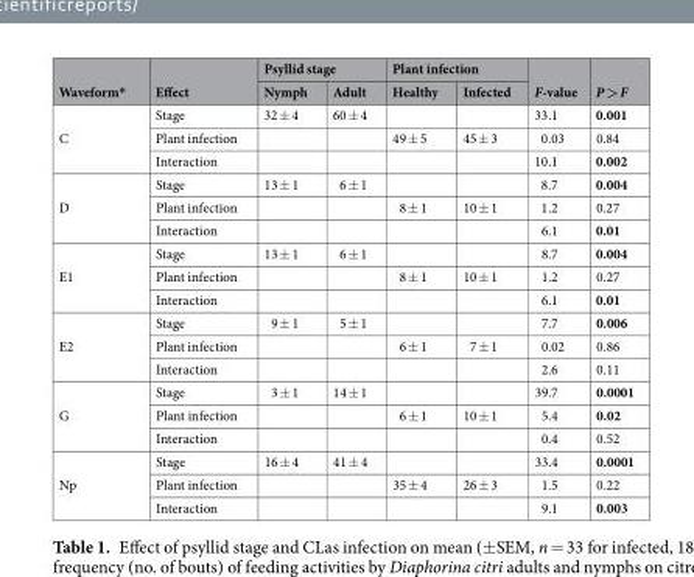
<table><thead><tr><td rowspan="2">Waveform*</td><td rowspan="2">Effect</td><td colspan="2">Psyllid stage</td><td colspan="2">Plant infection</td><td rowspan="2">F-value</td><td rowspan="2">P &gt; F</td></tr><tr><td>Nymph</td><td>Adult</td><td>Healthy</td><td>Infected</td></tr></thead><tbody><tr><td rowspan="3">C</td><td>Stage</td><td>32 ± 4</td><td>60 ± 4</td><td></td><td></td><td>33.1</td><td>0.001</td></tr><tr><td>Plant infection</td><td></td><td></td><td>49 ± 5</td><td>45 ± 3</td><td>0.03</td><td>0.84</td></tr><tr><td>Interaction</td><td></td><td></td><td></td><td></td><td>10.1</td><td>0.002</td></tr><tr><td rowspan="3">D</td><td>Stage</td><td>13 ± 1</td><td>6 ± 1</td><td></td><td></td><td>8.7</td><td>0.004</td></tr><tr><td>Plant infection</td><td></td><td></td><td>8 ± 1</td><td>10 ± 1</td><td>1.2</td><td>0.27</td></tr><tr><td>Interaction</td><td></td><td></td><td></td><td></td><td>6.1</td><td>0.01</td></tr><tr><td rowspan="3">E1</td><td>Stage</td><td>13 ± 1</td><td>6 ± 1</td><td></td><td></td><td>8.7</td><td>0.004</td></tr><tr><td>Plant infection</td><td></td><td></td><td>8 ± 1</td><td>10 ± 1</td><td>1.2</td><td>0.27</td></tr><tr><td>Interaction</td><td></td><td></td><td></td><td></td><td>6.1</td><td>0.01</td></tr><tr><td rowspan="3">E2</td><td>Stage</td><td>9 ± 1</td><td>5 ± 1</td><td></td><td></td><td>7.7</td><td>0.006</td></tr><tr><td>Plant infection</td><td></td><td></td><td>6 ± 1</td><td>7 ± 1</td><td>0.02</td><td>0.86</td></tr><tr><td>Interaction</td><td></td><td></td><td></td><td></td><td>2.6</td><td>0.11</td></tr><tr><td rowspan="3">G</td><td>Stage</td><td>3 ± 1</td><td>14 ± 1</td><td></td><td></td><td>39.7</td><td>0.0001</td></tr><tr><td>Plant infection</td><td></td><td></td><td>6 ± 1</td><td>10 ± 1</td><td>5.4</td><td>0.02</td></tr><tr><td>Interaction</td><td></td><td></td><td></td><td></td><td>0.4</td><td>0.52</td></tr><tr><td rowspan="3">Np</td><td>Stage</td><td>16 ± 4</td><td>41 ± 4</td><td></td><td></td><td>33.4</td><td>0.0001</td></tr><tr><td>Plant infection</td><td></td><td></td><td>35 ± 4</td><td>26 ± 3</td><td>1.5</td><td>0.22</td></tr><tr><td>Interaction</td><td></td><td></td><td></td><td></td><td>9.1</td><td>0.003</td></tr></tbody></table>